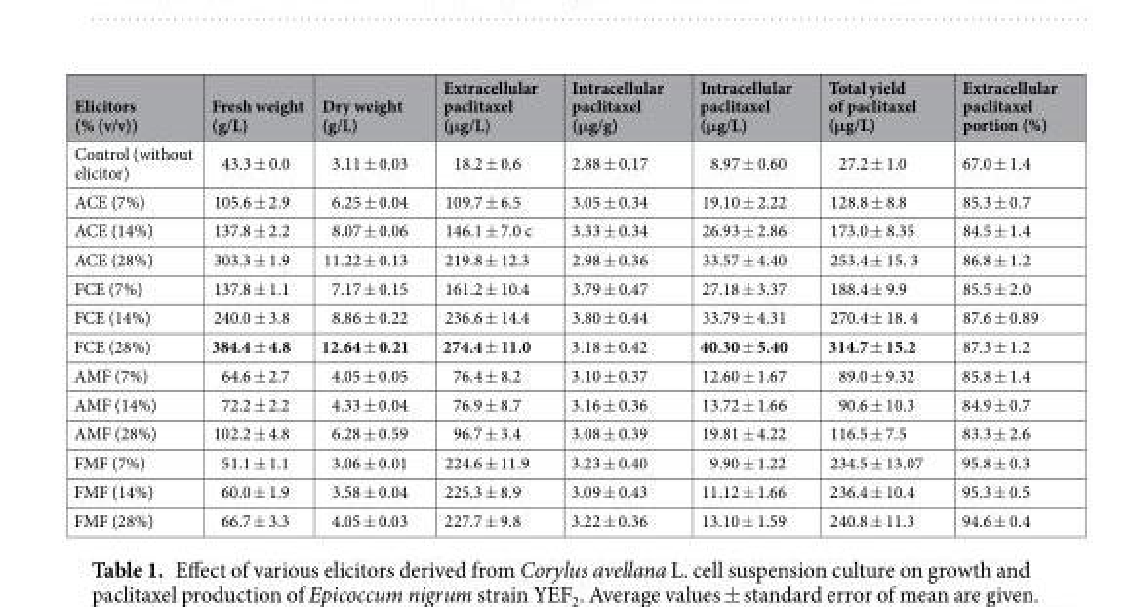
<table><thead><tr><td>Elicitors (% (v/v))</td><td>Fresh weight (g/L)</td><td>Dry weight (g/L)</td><td>Extracellular paclitaxel (μg/L)</td><td>Intracellular paclitaxel (μg/g)</td><td>Intracellular paclitaxel (μg/L)</td><td>Total yield of paclitaxel (μg/L)</td><td>Extracellular paclitaxel portion (%)</td></tr></thead><tbody><tr><td>Control (without elicitor)</td><td>43.3 ± 0.0</td><td>3.11 ± 0.03</td><td>18.2 ± 0.6</td><td>2.88 ± 0.17</td><td>8.97 ± 0.60</td><td>27.2 ± 1.0</td><td>67.0 ± 1.4</td></tr><tr><td>ACE (7%)</td><td>105.6 ± 2.9</td><td>6.25 ± 0.04</td><td>109.7 ± 6.5</td><td>3.05 ± 0.34</td><td>19.10 ± 2.22</td><td>128.8 ± 8.8</td><td>85.3 ± 0.7</td></tr><tr><td>ACE (14%)</td><td>137.8 ± 2.2</td><td>8.07 ± 0.06</td><td>146.1 ± 7.0 c</td><td>3.33 ± 0.34</td><td>26.93 ± 2.86</td><td>173.0 ± 8.35</td><td>84.5 ± 1.4</td></tr><tr><td>ACE (28%)</td><td>303.3 ± 1.9</td><td>11.22 ± 0.13</td><td>219.8 ± 12.3</td><td>2.98 ± 0.36</td><td>33.57 ± 4.40</td><td>253.4 ± 15. 3</td><td>86.8 ± 1.2</td></tr><tr><td>FCE (7%)</td><td>137.8 ± 1.1</td><td>7.17 ± 0.15</td><td>161.2 ± 10.4</td><td>3.79 ± 0.47</td><td>27.18 ± 3.37</td><td>188.4 ± 9.9</td><td>85.5 ± 2.0</td></tr><tr><td>FCE (14%)</td><td>240.0 ± 3.8</td><td>8.86 ± 0.22</td><td>236.6 ± 14.4</td><td>3.80 ± 0.44</td><td>33.79 ± 4.31</td><td>270.4 ± 18. 4</td><td>87.6 ± 0.89</td></tr><tr><td>FCE (28%)</td><td>384.4 ± 4.8</td><td>12.64 ± 0.21</td><td>274.4 ± 11.0</td><td>3.18 ± 0.42</td><td>40.30 ± 5.40</td><td>314.7 ± 15.2</td><td>87.3 ± 1.2</td></tr><tr><td>AMF (7%)</td><td>64.6 ± 2.7</td><td>4.05 ± 0.05</td><td>76.4 ± 8.2</td><td>3.10 ± 0.37</td><td>12.60 ± 1.67</td><td>89.0 ± 9.32</td><td>85.8 ± 1.4</td></tr><tr><td>AMF (14%)</td><td>72.2 ± 2.2</td><td>4.33 ± 0.04</td><td>76.9 ± 8.7</td><td>3.16 ± 0.36</td><td>13.72 ± 1.66</td><td>90.6 ± 10.3</td><td>84.9 ± 0.7</td></tr><tr><td>AMF (28%)</td><td>102.2 ± 4.8</td><td>6.28 ± 0.59</td><td>96.7 ± 3.4</td><td>3.08 ± 0.39</td><td>19.81 ± 4.22</td><td>116.5 ± 7.5</td><td>83.3 ± 2.6</td></tr><tr><td>FMF (7%)</td><td>51.1 ± 1.1</td><td>3.06 ± 0.01</td><td>224.6 ± 11.9</td><td>3.23 ± 0.40</td><td>9.90 ± 1.22</td><td>234.5 ± 13.07</td><td>95.8 ± 0.3</td></tr><tr><td>FMF (14%)</td><td>60.0 ± 1.9</td><td>3.58 ± 0.04</td><td>225.3 ± 8.9</td><td>3.09 ± 0.43</td><td>11.12 ± 1.66</td><td>236.4 ± 10.4</td><td>95.3 ± 0.5</td></tr><tr><td>FMF (28%)</td><td>66.7 ± 3.3</td><td>4.05 ± 0.03</td><td>227.7 ± 9.8</td><td>3.22 ± 0.36</td><td>13.10 ± 1.59</td><td>240.8 ± 11.3</td><td>94.6 ± 0.4</td></tr></tbody></table>